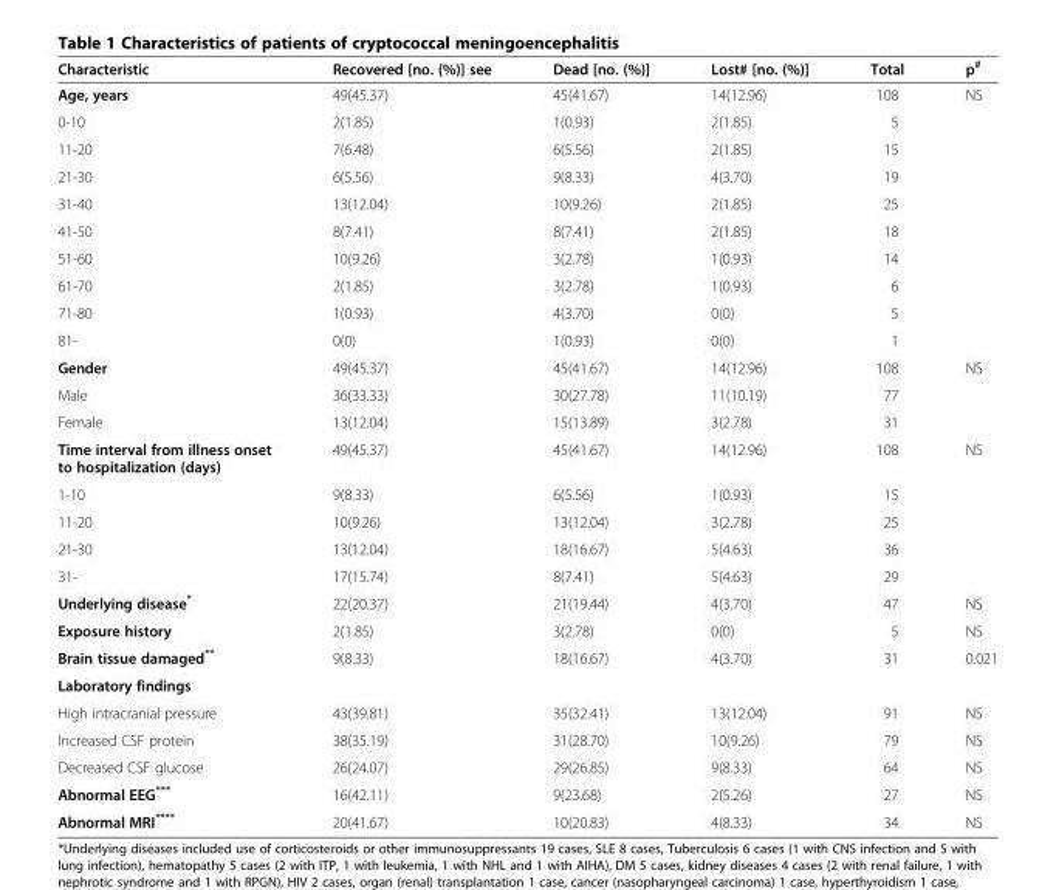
<table><thead><tr><td>Characteristic</td><td>Recovered [no. (%)] see</td><td>Dead [no. (%)]</td><td>Lost# [no. (%)]</td><td>Total</td><td>p<sup>#</sup></td></tr></thead><tbody><tr><td>Age, years</td><td>49(45.37)</td><td>45(41.67)</td><td>14(12.96)</td><td>108</td><td>NS</td></tr><tr><td>0-10</td><td>2(1.85)</td><td>1(0.93)</td><td>2(1.85)</td><td>5</td><td></td></tr><tr><td>11-20</td><td>7(6.48)</td><td>6(5.56)</td><td>2(1.85)</td><td>15</td><td></td></tr><tr><td>21-30</td><td>6(5.56)</td><td>9(8.33)</td><td>4(3.70)</td><td>19</td><td></td></tr><tr><td>31-40</td><td>13(12.04)</td><td>10(9.26)</td><td>2(1.85)</td><td>25</td><td></td></tr><tr><td>41-50</td><td>8(7.41)</td><td>8(7.41)</td><td>2(1.85)</td><td>18</td><td></td></tr><tr><td>51-60</td><td>10(9.26)</td><td>3(2.78)</td><td>1(0.93)</td><td>14</td><td></td></tr><tr><td>61-70</td><td>2(1.85)</td><td>3(2.78)</td><td>1(0.93)</td><td>6</td><td></td></tr><tr><td>71-80</td><td>1(0.93)</td><td>4(3.70)</td><td>0(0)</td><td>5</td><td></td></tr><tr><td>81-</td><td>0(0)</td><td>1(0.93)</td><td>0(0)</td><td>1</td><td></td></tr><tr><td>Gender</td><td>49(45.37)</td><td>45(41.67)</td><td>14(12.96)</td><td>108</td><td>NS</td></tr><tr><td>Male</td><td>36(33.33)</td><td>30(27.78)</td><td>11(10.19)</td><td>77</td><td></td></tr><tr><td>Female</td><td>13(12.04)</td><td>15(13.89)</td><td>3(2.78)</td><td>31</td><td></td></tr><tr><td>Time interval from illness onset to hospitalization (days)</td><td>49(45.37)</td><td>45(41.67)</td><td>14(12.96)</td><td>108</td><td>NS</td></tr><tr><td>1-10</td><td>9(8.33)</td><td>6(5.56)</td><td>1(0.93)</td><td>15</td><td></td></tr><tr><td>11-20</td><td>10(9.26)</td><td>13(12.04)</td><td>3(2.78)</td><td>25</td><td></td></tr><tr><td>21-30</td><td>13(12.04)</td><td>18(16.67)</td><td>5(4.63)</td><td>36</td><td></td></tr><tr><td>31-</td><td>17(15.74)</td><td>8(7.41)</td><td>5(4.63)</td><td>29</td><td></td></tr><tr><td>Underlying disease*</td><td>22(20.37)</td><td>21(19.44)</td><td>4(3.70)</td><td>47</td><td>NS</td></tr><tr><td>Exposure history</td><td>2(1.85)</td><td>3(2.78)</td><td>0(0)</td><td>5</td><td>NS</td></tr><tr><td>Brain tissue damaged**</td><td>9(8.33)</td><td>18(16.67)</td><td>4(3.70)</td><td>31</td><td>0.021</td></tr><tr><td colspan="6">Laboratory findings</td></tr><tr><td>High intracranial pressure</td><td>43(39.81)</td><td>35(32.41)</td><td>13(12.04)</td><td>91</td><td>NS</td></tr><tr><td>Increased CSF protein</td><td>38(35.19)</td><td>31(28.70)</td><td>10(9.26)</td><td>79</td><td>NS</td></tr><tr><td>Decreased CSF glucose</td><td>26(24.07)</td><td>29(26.85)</td><td>9(8.33)</td><td>64</td><td>NS</td></tr><tr><td>Abnormal EEG***</td><td>16(42.11)</td><td>9(23.68)</td><td>2(5.26)</td><td>27</td><td>NS</td></tr><tr><td>Abnormal MRI****</td><td>20(41.67)</td><td>10(20.83)</td><td>4(8.33)</td><td>34</td><td>NS</td></tr></tbody></table>